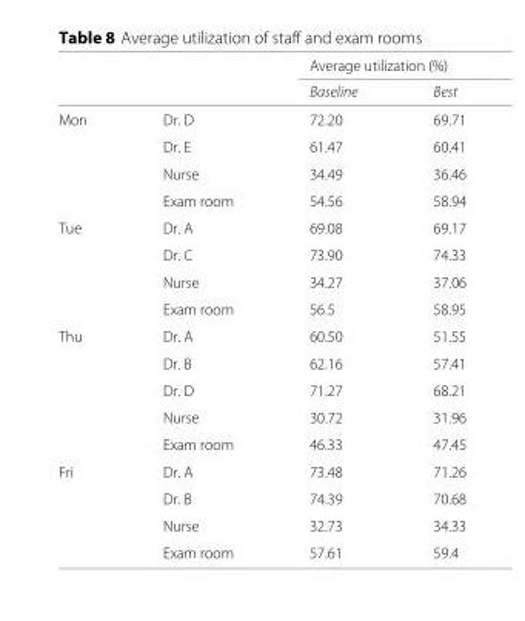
<table><thead><tr><td rowspan="2"></td><td rowspan="2"></td><td colspan="2">Average utilization (%)</td></tr><tr><td>Baseline</td><td>Best</td></tr></thead><tbody><tr><td rowspan="4">Mon</td><td>Dr. D</td><td>72.20</td><td>69.71</td></tr><tr><td>Dr. E</td><td>61.47</td><td>60.41</td></tr><tr><td>Nurse</td><td>34.49</td><td>36.46</td></tr><tr><td>Exam room</td><td>54.56</td><td>58.94</td></tr><tr><td rowspan="4">Tue</td><td>Dr. A</td><td>69.08</td><td>69.17</td></tr><tr><td>Dr. C</td><td>73.90</td><td>74.33</td></tr><tr><td>Nurse</td><td>34.27</td><td>37.06</td></tr><tr><td>Exam room</td><td>56.5</td><td>58.95</td></tr><tr><td rowspan="5">Thu</td><td>Dr. A</td><td>60.50</td><td>51.55</td></tr><tr><td>Dr. B</td><td>62.16</td><td>57.41</td></tr><tr><td>Dr. D</td><td>71.27</td><td>68.21</td></tr><tr><td>Nurse</td><td>30.72</td><td>31.96</td></tr><tr><td>Exam room</td><td>46.33</td><td>47.45</td></tr><tr><td rowspan="4">Fri</td><td>Dr. A</td><td>73.48</td><td>71.26</td></tr><tr><td>Dr. B</td><td>74.39</td><td>70.68</td></tr><tr><td>Nurse</td><td>32.73</td><td>34.33</td></tr><tr><td>Exam room</td><td>57.61</td><td>59.4</td></tr></tbody></table>